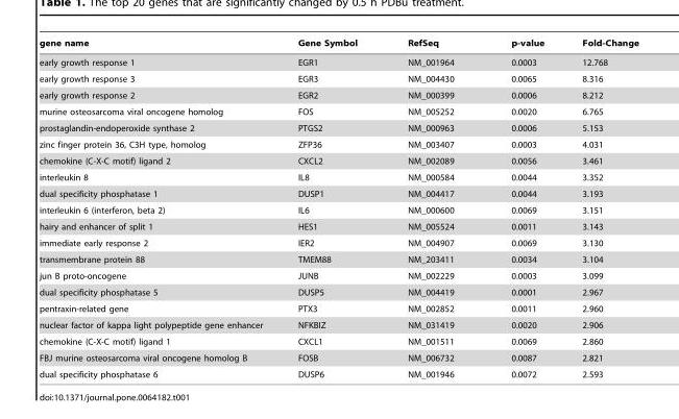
<table><thead><tr><td>gene name</td><td>Gene Symbol</td><td>RefSeq</td><td>p-value</td><td>Fold-Change</td></tr></thead><tbody><tr><td>early growth response 1</td><td>EGR1</td><td>NM_001964</td><td>0.0003</td><td>12.768</td></tr><tr><td>early growth response 3</td><td>EGR3</td><td>NM_004430</td><td>0.0065</td><td>8.316</td></tr><tr><td>early growth response 2</td><td>EGR2</td><td>NM_000399</td><td>0.0006</td><td>8.212</td></tr><tr><td>murine osteosarcoma viral oncogene homolog</td><td>FOS</td><td>NM_005252</td><td>0.0020</td><td>6.765</td></tr><tr><td>prostaglandin-endoperoxide synthase 2</td><td>PTGS2</td><td>NM_000963</td><td>0.0006</td><td>5.153</td></tr><tr><td>zinc finger protein 36, C3H type, homolog</td><td>ZFP36</td><td>NM_003407</td><td>0.0003</td><td>4.031</td></tr><tr><td>chemokine (C-X-C motif) ligand 2</td><td>CXCL2</td><td>NM_002089</td><td>0.0056</td><td>3.461</td></tr><tr><td>interleukin 8</td><td>IL8</td><td>NM_000584</td><td>0.0044</td><td>3.352</td></tr><tr><td>dual specificity phosphatase 1</td><td>DUSP1</td><td>NM_004417</td><td>0.0044</td><td>3.193</td></tr><tr><td>interleukin 6 (interferon, beta 2)</td><td>IL6</td><td>NM_000600</td><td>0.0069</td><td>3.151</td></tr><tr><td>hairy and enhancer of split 1</td><td>HES1</td><td>NM_005524</td><td>0.0011</td><td>3.143</td></tr><tr><td>immediate early response 2</td><td>IER2</td><td>NM_004907</td><td>0.0069</td><td>3.130</td></tr><tr><td>transmembrane protein 88</td><td>TMEM88</td><td>NM_203411</td><td>0.0034</td><td>3.104</td></tr><tr><td>jun B proto-oncogene</td><td>JUNB</td><td>NM_002229</td><td>0.0003</td><td>3.099</td></tr><tr><td>dual specificity phosphatase 5</td><td>DUSP5</td><td>NM_004419</td><td>0.0001</td><td>2.967</td></tr><tr><td>pentraxin-related gene</td><td>PTX3</td><td>NM_002852</td><td>0.0011</td><td>2.960</td></tr><tr><td>nuclear factor of kappa light polypeptide gene enhancer</td><td>NFKBIZ</td><td>NM_031419</td><td>0.0020</td><td>2.906</td></tr><tr><td>chemokine (C-X-C motif) ligand 1</td><td>CXCL1</td><td>NM_001511</td><td>0.0069</td><td>2.860</td></tr><tr><td>FBJ murine osteosarcoma viral oncogene homolog B</td><td>FOSB</td><td>NM_006732</td><td>0.0087</td><td>2.821</td></tr><tr><td>dual specificity phosphatase 6</td><td>DUSP6</td><td>NM_001946</td><td>0.0072</td><td>2.593</td></tr></tbody></table>